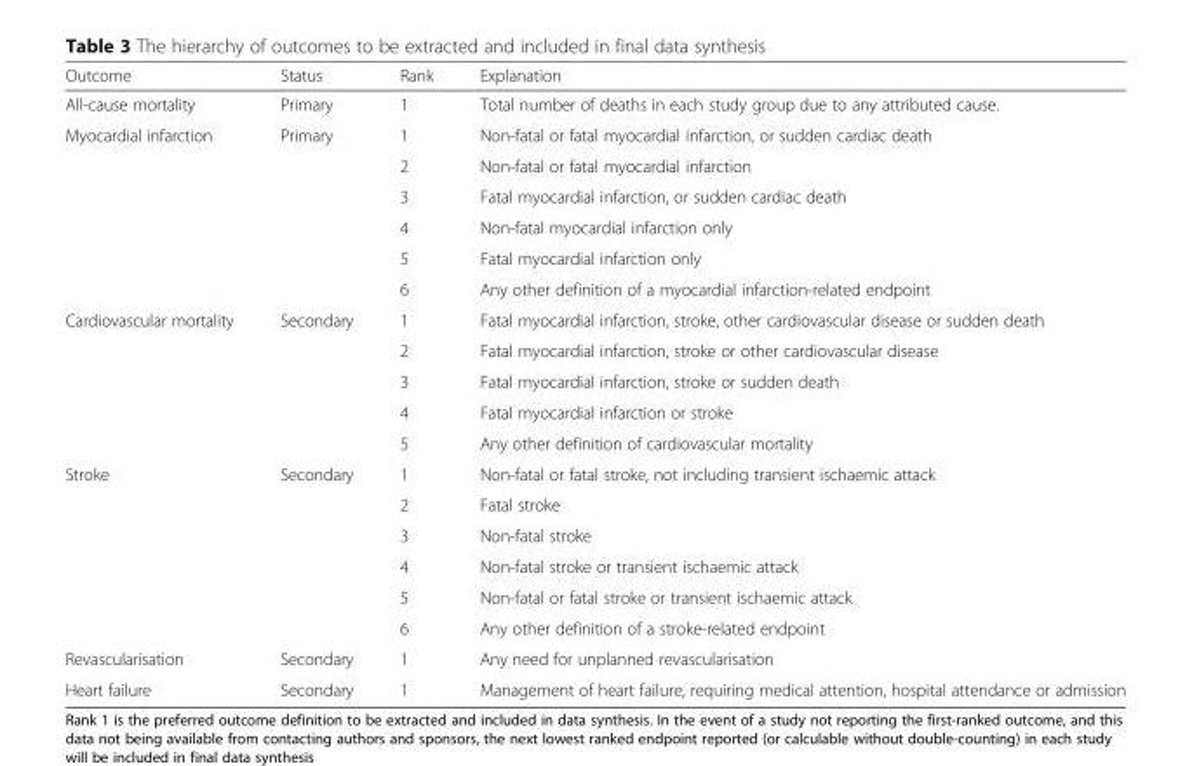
<table><thead><tr><td>Outcome</td><td>Status</td><td>Rank</td><td>Explanation</td></tr></thead><tbody><tr><td>All-cause mortality</td><td>Primary</td><td>1</td><td>Total number of deaths in each study group due to any attributed cause.</td></tr><tr><td rowspan="6">Myocardial infarction</td><td rowspan="6">Primary</td><td>1</td><td>Non-fatal or fatal myocardial infarction, or sudden cardiac death</td></tr><tr><td>2</td><td>Non-fatal or fatal myocardial infarction</td></tr><tr><td>3</td><td>Fatal myocardial infarction, or sudden cardiac death</td></tr><tr><td>4</td><td>Non-fatal myocardial infarction only</td></tr><tr><td>5</td><td>Fatal myocardial infarction only</td></tr><tr><td>6</td><td>Any other definition of a myocardial infarction-related endpoint</td></tr><tr><td rowspan="5">Cardiovascular mortality</td><td rowspan="5">Secondary</td><td>1</td><td>Fatal myocardial infarction, stroke, other cardiovascular disease or sudden death</td></tr><tr><td>2</td><td>Fatal myocardial infarction, stroke or other cardiovascular disease</td></tr><tr><td>3</td><td>Fatal myocardial infarction, stroke or sudden death</td></tr><tr><td>4</td><td>Fatal myocardial infarction or stroke</td></tr><tr><td>5</td><td>Any other definition of cardiovascular mortality</td></tr><tr><td rowspan="6">Stroke</td><td rowspan="6">Secondary</td><td>1</td><td>Non-fatal or fatal stroke, not including transient ischaemic attack</td></tr><tr><td>2</td><td>Fatal stroke</td></tr><tr><td>3</td><td>Non-fatal stroke</td></tr><tr><td>4</td><td>Non-fatal stroke or transient ischaemic attack</td></tr><tr><td>5</td><td>Non-fatal or fatal stroke or transient ischaemic attack</td></tr><tr><td>6</td><td>Any other definition of a stroke-related endpoint</td></tr><tr><td>Revascularisation</td><td>Secondary</td><td>1</td><td>Any need for unplanned revascularisation</td></tr><tr><td>Heart failure</td><td>Secondary</td><td>1</td><td>Management of heart failure, requiring medical attention, hospital attendance or admission</td></tr></tbody></table>